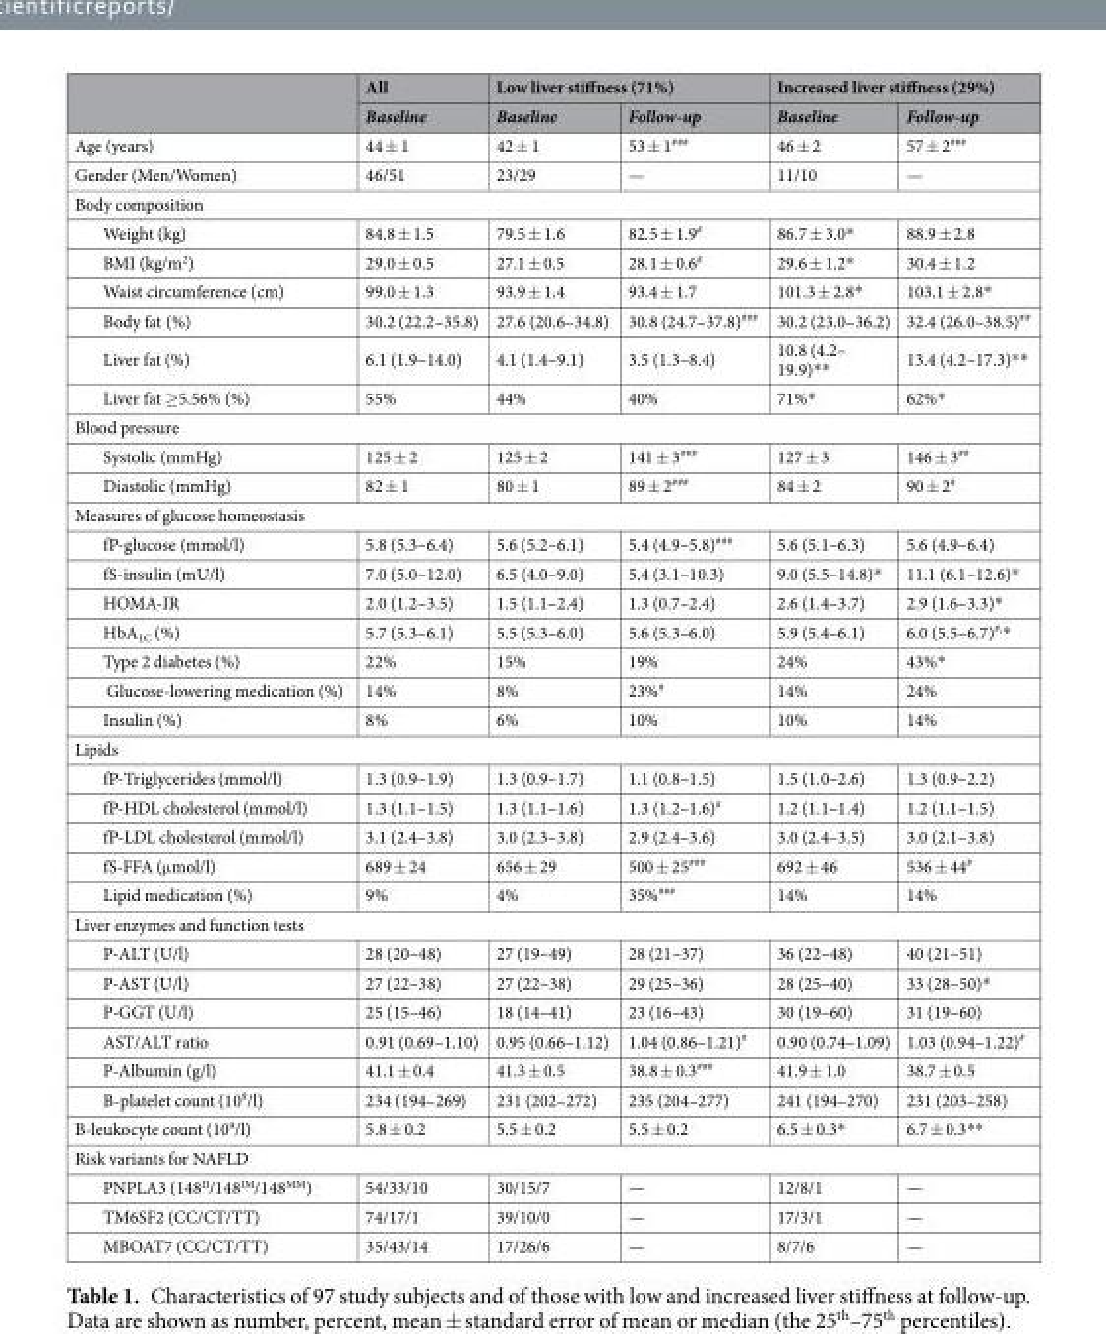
<table><thead><tr><td rowspan="2"></td><td rowspan="2">All Baseline</td><td colspan="2">Low liver stiffness (71%)</td><td colspan="2">Increased liver stiffness (29%)</td></tr><tr><td>Baseline</td><td>Follow-up</td><td>Baseline</td><td>Follow-up</td></tr></thead><tbody><tr><td>Age (years)</td><td>44 ± 1</td><td>42 ± 1</td><td>53 ± 1<sup>###</sup></td><td>46 ± 2</td><td>57 ± 2<sup>###</sup></td></tr><tr><td>Gender (Men/Women)</td><td>46/51</td><td>23/29</td><td>—</td><td>11/10</td><td>—</td></tr><tr><td colspan="6">Body composition</td></tr><tr><td>Weight (kg)</td><td>84.8 ± 1.5</td><td>79.5 ± 1.6</td><td>82.5 ± 1.9<sup>#</sup></td><td>86.7 ± 3.0*</td><td>88.9 ± 2.8</td></tr><tr><td>BMI (kg/m<sup>2</sup>)</td><td>29.0 ± 0.5</td><td>27.1 ± 0.5</td><td>28.1 ± 0.6<sup>#</sup></td><td>29.6 ± 1.2*</td><td>30.4 ± 1.2</td></tr><tr><td>Waist circumference (cm)</td><td>99.0 ± 1.3</td><td>93.9 ± 1.4</td><td>93.4 ± 1.7</td><td>101.3 ± 2.8*</td><td>103.1 ± 2.8*</td></tr><tr><td>Body fat (%)</td><td>30.2 (22.2–35.8)</td><td>27.6 (20.6–34.8)</td><td>30.8 (24.7–37.8)<sup>###</sup></td><td>30.2 (23.0–36.2)</td><td>32.4 (26.0–38.5)<sup>##</sup></td></tr><tr><td>Liver fat (%)</td><td>6.1 (1.9–14.0)</td><td>4.1 (1.4–9.1)</td><td>3.5 (1.3–8.4)</td><td>10.8 (4.2– 19.9)**</td><td>13.4 (4.2–17.3)**</td></tr><tr><td>Liver fat ≥5.56% (%)</td><td>55%</td><td>44%</td><td>40%</td><td>71%*</td><td>62%*</td></tr><tr><td colspan="6">Blood pressure</td></tr><tr><td>Systolic (mmHg)</td><td>125 ± 2</td><td>125 ± 2</td><td>141 ± 3<sup>###</sup></td><td>127 ± 3</td><td>146 ± 3<sup>##</sup></td></tr><tr><td>Diastolic (mmHg)</td><td>82 ± 1</td><td>80 ± 1</td><td>89 ± 2<sup>###</sup></td><td>84 ± 2</td><td>90 ± 2<sup>#</sup></td></tr><tr><td colspan="6">Measures of glucose homeostasis</td></tr><tr><td>fP-glucose (mmol/l)</td><td>5.8 (5.3–6.4)</td><td>5.6 (5.2–6.1)</td><td>5.4 (4.9–5.8)<sup>###</sup></td><td>5.6 (5.1–6.3)</td><td>5.6 (4.9–6.4)</td></tr><tr><td>fS-insulin (mU/l)</td><td>7.0 (5.0–12.0)</td><td>6.5 (4.0–9.0)</td><td>5.4 (3.1–10.3)</td><td>9.0 (5.5–14.8)*</td><td>11.1 (6.1–12.6)*</td></tr><tr><td>HOMA-IR</td><td>2.0 (1.2–3.5)</td><td>1.5 (1.1–2.4)</td><td>1.3 (0.7–2.4)</td><td>2.6 (1.4–3.7)</td><td>2.9 (1.6–3.3)*</td></tr><tr><td>HbA<sub>1C</sub> (%)</td><td>5.7 (5.3–6.1)</td><td>5.5 (5.3–6.0)</td><td>5.6 (5.3–6.0)</td><td>5.9 (5.4–6.1)</td><td>6.0 (5.5–6.7)<sup>#,</sup>*</td></tr><tr><td>Type 2 diabetes (%)</td><td>22%</td><td>15%</td><td>19%</td><td>24%</td><td>43%*</td></tr><tr><td>Glucose-lowering medication (%)</td><td>14%</td><td>8%</td><td>23%<sup>#</sup></td><td>14%</td><td>24%</td></tr><tr><td>Insulin (%)</td><td>8%</td><td>6%</td><td>10%</td><td>10%</td><td>14%</td></tr><tr><td colspan="6">Lipids</td></tr><tr><td>fP-Triglycerides (mmol/l)</td><td>1.3 (0.9–1.9)</td><td>1.3 (0.9–1.7)</td><td>1.1 (0.8–1.5)</td><td>1.5 (1.0–2.6)</td><td>1.3 (0.9–2.2)</td></tr><tr><td>fP-HDL cholesterol (mmol/l)</td><td>1.3 (1.1–1.5)</td><td>1.3 (1.1–1.6)</td><td>1.3 (1.2–1.6)<sup>#</sup></td><td>1.2 (1.1–1.4)</td><td>1.2 (1.1–1.5)</td></tr><tr><td>fP-LDL cholesterol (mmol/l)</td><td>3.1 (2.4–3.8)</td><td>3.0 (2.3–3.8)</td><td>2.9 (2.4–3.6)</td><td>3.0 (2.4–3.5)</td><td>3.0 (2.1–3.8)</td></tr><tr><td>fS-FFA (μmol/l)</td><td>689 ± 24</td><td>656 ± 29</td><td>500 ± 25<sup>###</sup></td><td>692 ± 46</td><td>536 ± 44<sup>#</sup></td></tr><tr><td>Lipid medication (%)</td><td>9%</td><td>4%</td><td>35%<sup>###</sup></td><td>14%</td><td>14%</td></tr><tr><td colspan="6">Liver enzymes and function tests</td></tr><tr><td>P-ALT (U/l)</td><td>28 (20–48)</td><td>27 (19–49)</td><td>28 (21–37)</td><td>36 (22–48)</td><td>40 (21–51)</td></tr><tr><td>P-AST (U/l)</td><td>27 (22–38)</td><td>27 (22–38)</td><td>29 (25–36)</td><td>28 (25–40)</td><td>33 (28–50)*</td></tr><tr><td>P-GGT (U/l)</td><td>25 (15–46)</td><td>18 (14–41)</td><td>23 (16–43)</td><td>30 (19–60)</td><td>31 (19–60)</td></tr><tr><td>AST/ALT ratio</td><td>0.91 (0.69–1.10)</td><td>0.95 (0.66–1.12)</td><td>1.04 (0.86–1.21)<sup>#</sup></td><td>0.90 (0.74–1.09)</td><td>1.03 (0.94–1.22)<sup>#</sup></td></tr><tr><td>P-Albumin (g/l)</td><td>41.1 ± 0.4</td><td>41.3 ± 0.5</td><td>38.8 ± 0.3<sup>###</sup></td><td>41.9 ± 1.0</td><td>38.7 ± 0.5</td></tr><tr><td>B-platelet count (10<sup>9</sup>/l)</td><td>234 (194–269)</td><td>231 (202–272)</td><td>235 (204–277)</td><td>241 (194–270)</td><td>231 (203–258)</td></tr><tr><td>B-leukocyte count (10<sup>9</sup>/l)</td><td>5.8 ± 0.2</td><td>5.5 ± 0.2</td><td>5.5 ± 0.2</td><td>6.5 ± 0.3*</td><td>6.7 ± 0.3**</td></tr><tr><td colspan="6">Risk variants for NAFLD</td></tr><tr><td>PNPLA3 (148<sup>II</sup>/148<sup>IM</sup>/148<sup>MM</sup>)</td><td>54/33/10</td><td>30/15/7</td><td>—</td><td>12/8/1</td><td>—</td></tr><tr><td>TM6SF2 (CC/CT/TT)</td><td>74/17/1</td><td>39/10/0</td><td>—</td><td>17/3/1</td><td>—</td></tr><tr><td>MBOAT7 (CC/CT/TT)</td><td>35/43/14</td><td>17/26/6</td><td>—</td><td>8/7/6</td><td>—</td></tr></tbody></table>